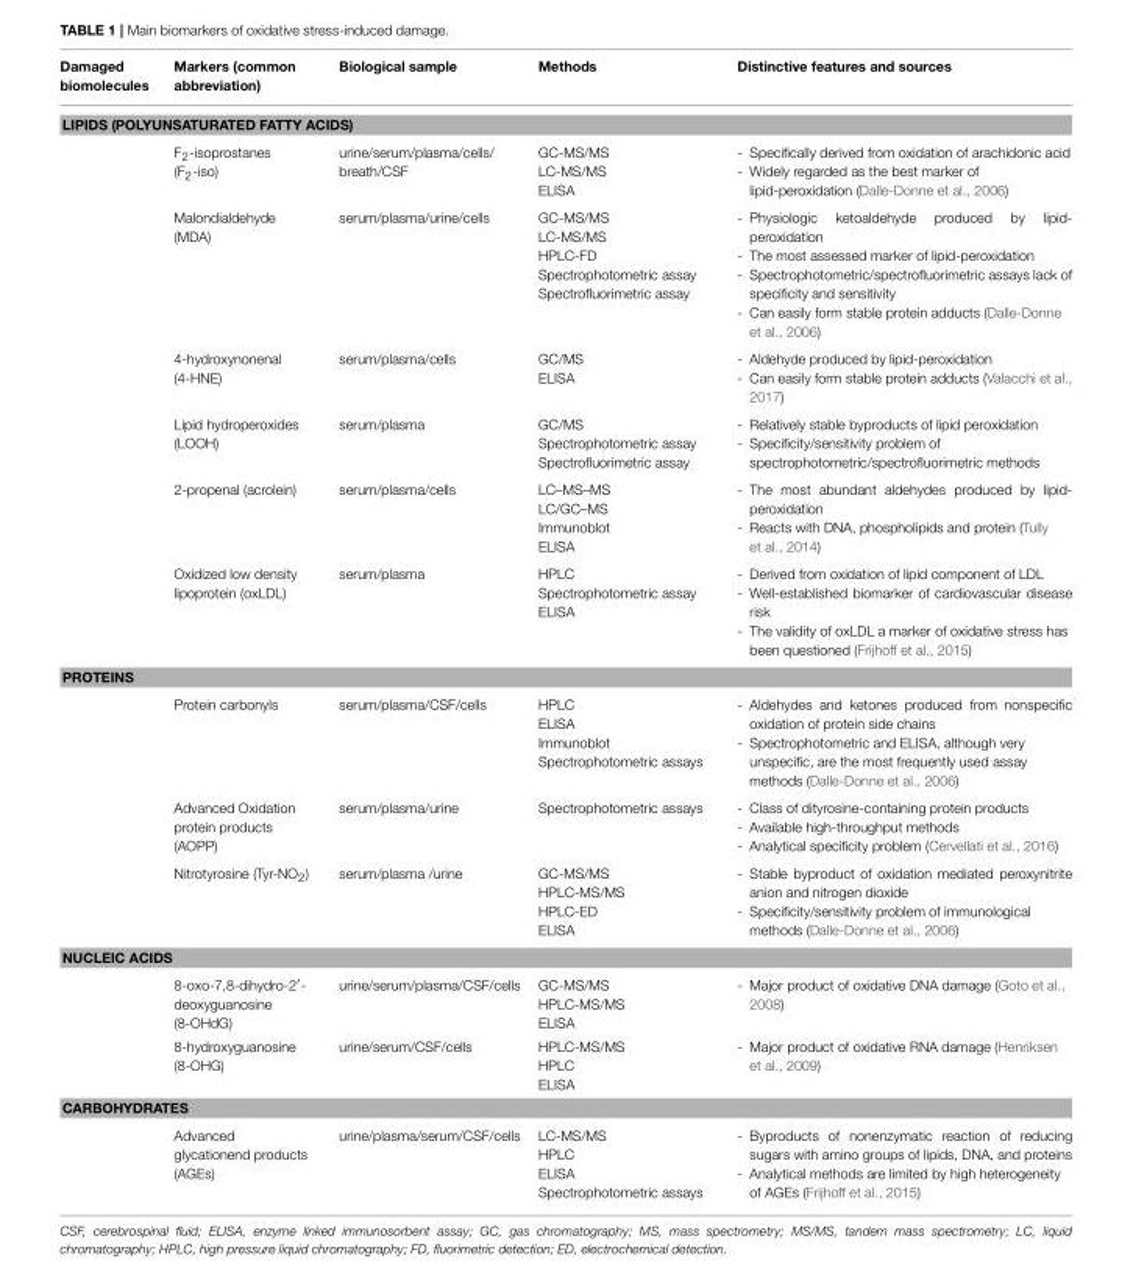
<table><thead><tr><td>Damaged biomolecules</td><td>Markers (common abbreviation)</td><td>Biological sample</td><td>Methods</td><td>Distinctive features and sources</td></tr></thead><tbody><tr><td colspan="5">LIPIDS (POLYUNSATURATED FATTY ACIDS)</td></tr><tr><td></td><td>F<sub>2</sub>-isoprostanes (F<sub>2</sub>-iso)</td><td>urine/serum/plasma/cells/ breath/CSF</td><td>GC-MS/MS LC-MS/MS ELISA</td><td>- Specifically derived from oxidation of arachidonic acid - Widely regarded as the best marker of lipid-peroxidation (Dalle-Donne et al., 2006)</td></tr><tr><td></td><td>Malondialdehyde (MDA)</td><td>serum/plasma/urine/cells</td><td>GC-MS/MS LC-MS/MS HPLC-FD Spectrophotometric assay Spectrofluorimetric assay</td><td>- Physiologic ketoaldehyde produced by lipid- peroxidation - The most assessed marker of lipid-peroxidation - Spectrophotometric/spectrofluorimetric assays lack of specificity and sensitivity - Can easily form stable protein adducts (Dalle-Donne et al., 2006)</td></tr><tr><td></td><td>4-hydroxynonenal (4-HNE)</td><td>serum/plasma/cells</td><td>GC/MS ELISA</td><td>- Aldehyde produced by lipid-peroxidation - Can easily form stable protein adducts (Valacchi et al., 2017)</td></tr><tr><td></td><td>Lipid hydroperoxides (LOOH)</td><td>serum/plasma</td><td>GC/MS Spectrophotometric assay Spectrofluorimetric assay</td><td>- Relatively stable byproducts of lipid peroxidation - Specificity/sensitivity problem of spectrophotometric/spectrofluorimetric methods</td></tr><tr><td></td><td>2-propenal (acrolein)</td><td>serum/plasma/cells</td><td>LC–MS–MS LC/GC–MS Immunoblot ELISA</td><td>- The most abundant aldehydes produced by lipid- peroxidation - Reacts with DNA, phospholipids and protein (Tully et al., 2014)</td></tr><tr><td></td><td>Oxidized low density lipoprotein (oxLDL)</td><td>serum/plasma</td><td>HPLC Spectrophotometric assay ELISA</td><td>- Derived from oxidation of lipid component of LDL - Well-established biomarker of cardiovascular disease risk - The validity of oxLDL a marker of oxidative stress has been questioned (Frijhoff et al., 2015)</td></tr><tr><td colspan="5">PROTEINS</td></tr><tr><td></td><td>Protein carbonyls</td><td>serum/plasma/CSF/cells</td><td>HPLC ELISA Immunoblot Spectrophotometric assays</td><td>- Aldehydes and ketones produced from nonspecific oxidation of protein side chains - Spectrophotometric and ELISA, although very unspecific, are the most frequently used assay methods (Dalle-Donne et al., 2006)</td></tr><tr><td></td><td>Advanced Oxidation protein products (AOPP)</td><td>serum/plasma/urine</td><td>Spectrophotometric assays</td><td>- Class of dityrosine-containing protein products - Available high-throughput methods - Analytical specificity problem (Cervellati et al., 2016)</td></tr><tr><td></td><td>Nitrotyrosine (Tyr-NO<sub>2</sub>)</td><td>serum/plasma /urine</td><td>GC-MS/MS HPLC-MS/MS HPLC-ED ELISA</td><td>- Stable byproduct of oxidation mediated peroxynitrite anion and nitrogen dioxide - Specificity/sensitivity problem of immunological methods (Dalle-Donne et al., 2006)</td></tr><tr><td colspan="5">NUCLEIC ACIDS</td></tr><tr><td></td><td>8-oxo-7,8-dihydro-2′- deoxyguanosine (8-OHdG)</td><td>urine/serum/plasma/CSF/cells</td><td>GC-MS/MS HPLC-MS/MS ELISA</td><td>- Major product of oxidative DNA damage (Goto et al., 2008)</td></tr><tr><td></td><td>8-hydroxyguanosine (8-OHG)</td><td>urine/serum/CSF/cells</td><td>HPLC-MS/MS HPLC ELISA</td><td>- Major product of oxidative RNA damage (Henriksen et al., 2009)</td></tr><tr><td colspan="5">CARBOHYDRATES</td></tr><tr><td></td><td>Advanced glycationend products (AGEs)</td><td>urine/plasma/serum/CSF/cells</td><td>LC-MS/MS HPLC ELISA Spectrophotometric assays</td><td>- Byproducts of nonenzymatic reaction of reducing sugars with amino groups of lipids, DNA, and proteins - Analytical methods are limited by high heterogeneity of AGEs (Frijhoff et al., 2015)</td></tr></tbody></table>